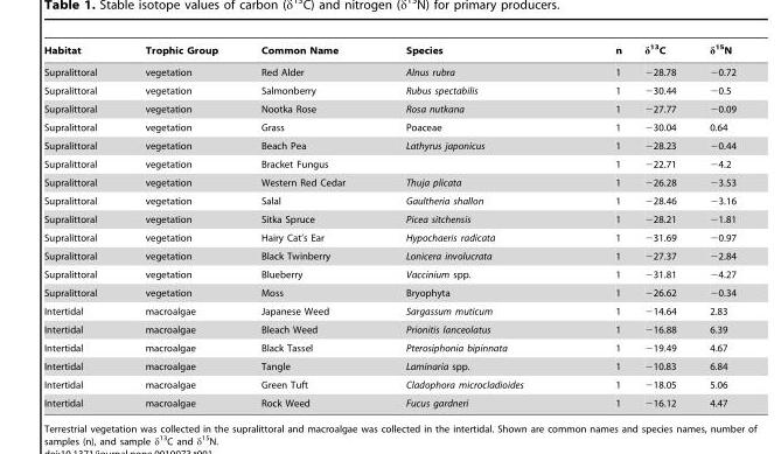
<table><thead><tr><td>Habitat</td><td>Trophic Group</td><td>Common Name</td><td>Species</td><td>n</td><td>δ<sup>13</sup>C</td><td>δ<sup>15</sup>N</td></tr></thead><tbody><tr><td>Supralittoral</td><td>vegetation</td><td>Red Alder</td><td>Alnus rubra</td><td>1</td><td>−28.78</td><td>−0.72</td></tr><tr><td>Supralittoral</td><td>vegetation</td><td>Salmonberry</td><td>Rubus spectabilis</td><td>1</td><td>−30.44</td><td>−0.5</td></tr><tr><td>Supralittoral</td><td>vegetation</td><td>Nootka Rose</td><td>Rosa nutkana</td><td>1</td><td>−27.77</td><td>−0.09</td></tr><tr><td>Supralittoral</td><td>vegetation</td><td>Grass</td><td>Poaceae</td><td>1</td><td>−30.04</td><td>0.64</td></tr><tr><td>Supralittoral</td><td>vegetation</td><td>Beach Pea</td><td>Lathyrus japonicus</td><td>1</td><td>−28.23</td><td>−0.44</td></tr><tr><td>Supralittoral</td><td>vegetation</td><td>Bracket Fungus</td><td></td><td>1</td><td>−22.71</td><td>−4.2</td></tr><tr><td>Supralittoral</td><td>vegetation</td><td>Western Red Cedar</td><td>Thuja plicata</td><td>1</td><td>−26.28</td><td>−3.53</td></tr><tr><td>Supralittoral</td><td>vegetation</td><td>Salal</td><td>Gaultheria shallon</td><td>1</td><td>−28.46</td><td>−3.16</td></tr><tr><td>Supralittoral</td><td>vegetation</td><td>Sitka Spruce</td><td>Picea sitchensis</td><td>1</td><td>−28.21</td><td>−1.81</td></tr><tr><td>Supralittoral</td><td>vegetation</td><td>Hairy Cat’s Ear</td><td>Hypochaeris radicata</td><td>1</td><td>−31.69</td><td>−0.97</td></tr><tr><td>Supralittoral</td><td>vegetation</td><td>Black Twinberry</td><td>Lonicera involucrata</td><td>1</td><td>−27.37</td><td>−2.84</td></tr><tr><td>Supralittoral</td><td>vegetation</td><td>Blueberry</td><td>Vaccinium spp.</td><td>1</td><td>−31.81</td><td>−4.27</td></tr><tr><td>Supralittoral</td><td>vegetation</td><td>Moss</td><td>Bryophyta</td><td>1</td><td>−26.62</td><td>−0.34</td></tr><tr><td>Intertidal</td><td>macroalgae</td><td>Japanese Weed</td><td>Sargassum muticum</td><td>1</td><td>−14.64</td><td>2.83</td></tr><tr><td>Intertidal</td><td>macroalgae</td><td>Bleach Weed</td><td>Prionitis lanceolatus</td><td>1</td><td>−16.88</td><td>6.39</td></tr><tr><td>Intertidal</td><td>macroalgae</td><td>Black Tassel</td><td>Pterosiphonia bipinnata</td><td>1</td><td>−19.49</td><td>4.67</td></tr><tr><td>Intertidal</td><td>macroalgae</td><td>Tangle</td><td>Laminaria spp.</td><td>1</td><td>−10.83</td><td>6.84</td></tr><tr><td>Intertidal</td><td>macroalgae</td><td>Green Tuft</td><td>Cladophora microcladioides</td><td>1</td><td>−18.05</td><td>5.06</td></tr><tr><td>Intertidal</td><td>macroalgae</td><td>Rock Weed</td><td>Fucus gardneri</td><td>1</td><td>−16.12</td><td>4.47</td></tr></tbody></table>